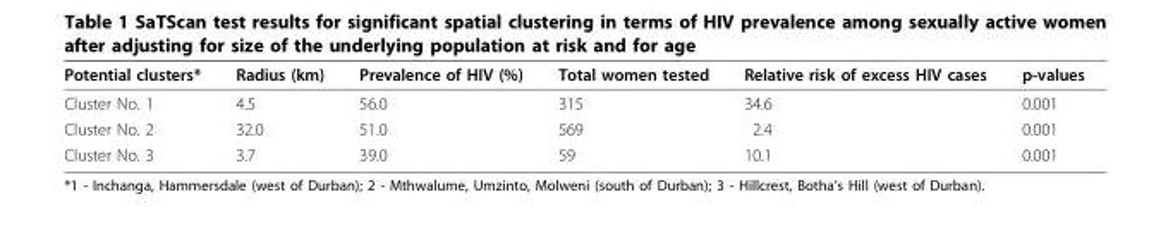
<table><thead><tr><td>Potential clusters*</td><td>Radius (km)</td><td>Prevalence of HIV (%)</td><td>Total women tested</td><td>Relative risk of excess HIV cases</td><td>p-values</td></tr></thead><tbody><tr><td>Cluster No. 1</td><td>4.5</td><td>56.0</td><td>315</td><td>34.6</td><td>0.001</td></tr><tr><td>Cluster No. 2</td><td>32.0</td><td>51.0</td><td>569</td><td>2.4</td><td>0.001</td></tr><tr><td>Cluster No. 3</td><td>3.7</td><td>39.0</td><td>59</td><td>10.1</td><td>0.001</td></tr></tbody></table>